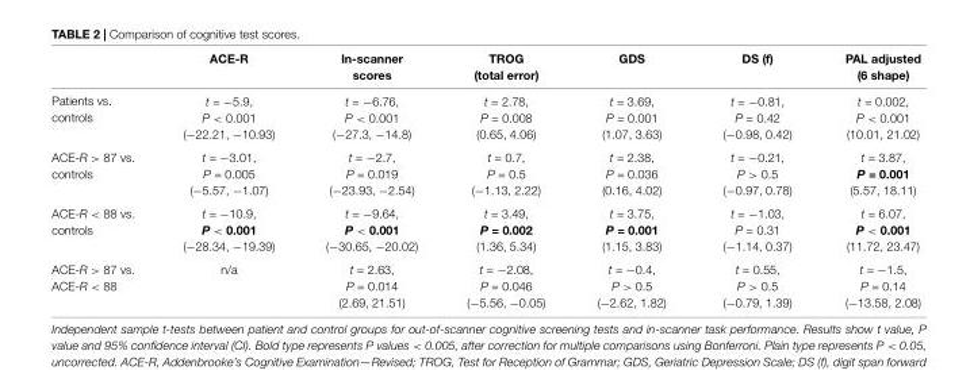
<table><thead><tr><td></td><td>ACE-R</td><td>In-scanner scores</td><td>TROG (total error)</td><td>GDS</td><td>DS (f)</td><td>PAL adjusted (6 shape)</td></tr></thead><tbody><tr><td>Patients vs. controls</td><td>t = −5.9, P &lt; 0.001 (−22.21, −10.93)</td><td>t = −6.76, P &lt; 0.001 (−27.3, −14.8)</td><td>t = 2.78, P = 0.008 (0.65, 4.06)</td><td>t = 3.69, P = 0.001 (1.07, 3.63)</td><td>t = −0.81, P = 0.42 (−0.98, 0.42)</td><td>t = 0.002, P &lt; 0.001 (10.01, 21.02)</td></tr><tr><td>ACE-R &gt; 87 vs. controls</td><td>t = −3.01, P = 0.005 (−5.57, −1.07)</td><td>t = −2.7, P = 0.019 (−23.93, −2.54)</td><td>t = 0.7, P = 0.5 (−1.13, 2.22)</td><td>t = 2.38, P = 0.036 (0.16, 4.02)</td><td>t = −0.21, P &gt; 0.5 (−0.97, 0.78)</td><td>t = 3.87, P = 0.001 (5.57, 18.11)</td></tr><tr><td>ACE-R &lt; 88 vs. controls</td><td>t = −10.9, P &lt; 0.001 (−28.34, −19.39)</td><td>t = −9.64, P &lt; 0.001 (−30.65, −20.02)</td><td>t = 3.49, P = 0.002 (1.36, 5.34)</td><td>t = 3.75, P = 0.001 (1.15, 3.83)</td><td>t = −1.03, P = 0.31 (−1.14, 0.37)</td><td>t = 6.07, P &lt; 0.001 (11.72, 23.47)</td></tr><tr><td>ACE-R &gt; 87 vs. ACE-R &lt; 88</td><td>n/a</td><td>t = 2.63, P = 0.014 (2.69, 21.51)</td><td>t = −2.08, P = 0.046 (−5.56, −0.05)</td><td>t = −0.4, P &gt; 0.5 (−2.62, 1.82)</td><td>t = 0.55, P &gt; 0.5 (−0.79, 1.39)</td><td>t = −1.5, P = 0.14 (−13.58, 2.08)</td></tr></tbody></table>